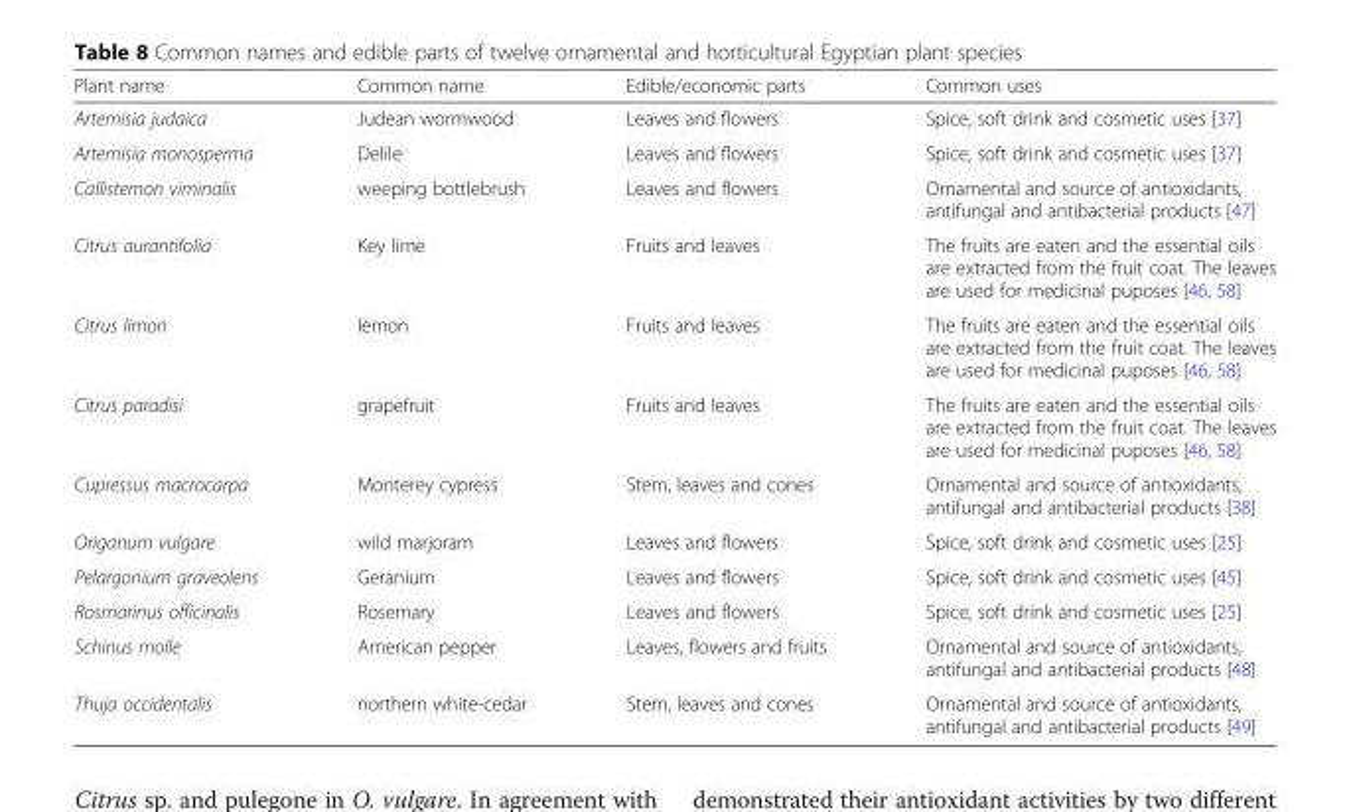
<table><thead><tr><td>Plant name</td><td>Common name</td><td>Edible/economic parts</td><td>Common uses</td></tr></thead><tbody><tr><td>Artemisia judaica</td><td>Judean wormwood</td><td>Leaves and flowers</td><td>Spice, soft drink and cosmetic uses [37]</td></tr><tr><td>Artemisia monosperma</td><td>Delile</td><td>Leaves and flowers</td><td>Spice, soft drink and cosmetic uses [37]</td></tr><tr><td>Callistemon viminalis</td><td>weeping bottlebrush</td><td>Leaves and flowers</td><td>Ornamental and source of antioxidants, antifungal and antibacterial products [47]</td></tr><tr><td>Citrus aurantifolia</td><td>Key lime</td><td>Fruits and leaves</td><td>The fruits are eaten and the essential oils are extracted from the fruit coat. The leaves are used for medicinal puposes [46, 58]</td></tr><tr><td>Citrus limon</td><td>lemon</td><td>Fruits and leaves</td><td>The fruits are eaten and the essential oils are extracted from the fruit coat. The leaves are used for medicinal puposes [46, 58]</td></tr><tr><td>Citrus paradisi</td><td>grapefruit</td><td>Fruits and leaves</td><td>The fruits are eaten and the essential oils are extracted from the fruit coat. The leaves are used for medicinal puposes [46, 58]</td></tr><tr><td>Cupressus macrocarpa</td><td>Monterey cypress</td><td>Stem, leaves and cones</td><td>Ornamental and source of antioxidants, antifungal and antibacterial products [38]</td></tr><tr><td>Origanum vulgare</td><td>wild marjoram</td><td>Leaves and flowers</td><td>Spice, soft drink and cosmetic uses [25]</td></tr><tr><td>Pelargonium graveolens</td><td>Geranium</td><td>Leaves and flowers</td><td>Spice, soft drink and cosmetic uses [45]</td></tr><tr><td>Rosmarinus officinalis</td><td>Rosemary</td><td>Leaves and flowers</td><td>Spice, soft drink and cosmetic uses [25]</td></tr><tr><td>Schinus molle</td><td>American pepper</td><td>Leaves, flowers and fruits</td><td>Ornamental and source of antioxidants, antifungal and antibacterial products [48]</td></tr><tr><td>Thuja occidentalis</td><td>northern white-cedar</td><td>Stem, leaves and cones</td><td>Ornamental and source of antioxidants, antifungal and antibacterial products [49]</td></tr></tbody></table>